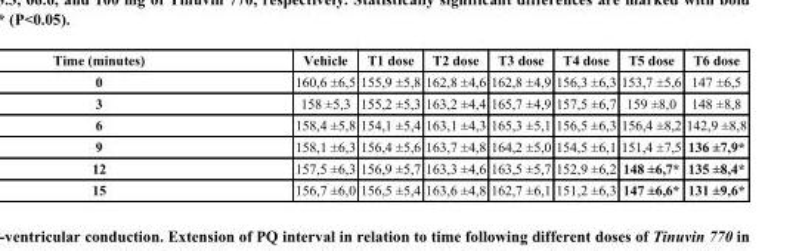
<table><thead><tr><td>Time (minutes)</td><td>Vehicle</td><td>T1 dose</td><td>T2 dose</td><td>T3 dose</td><td>T4 dose</td><td>T5 dose</td><td>T6 dose</td></tr></thead><tbody><tr><td>0</td><td>160,6 ±6,5</td><td>155,9 ±5,8</td><td>162,8 ±4,6</td><td>162,8 ±4,9</td><td>156,3 ±6,3</td><td>153,7 ±5,6</td><td>147 ±6,5</td></tr><tr><td>3</td><td>158 ±5,3</td><td>155,2 ±5,3</td><td>163,2 ±4,4</td><td>165,7 ±4,9</td><td>157,5 ±6,7</td><td>159 ±8,0</td><td>148 ±8,8</td></tr><tr><td>6</td><td>158,4 ±5,8</td><td>154,1 ±5,4</td><td>163,1 ±4,3</td><td>165,3 ±5,1</td><td>156,5 ±6,3</td><td>156,4 ±8,2</td><td>142,9 ±8,8</td></tr><tr><td>9</td><td>158,1 ±6,3</td><td>156,4 ±5,6</td><td>163,7 ±4,8</td><td>164,2 ±5,0</td><td>154,5 ±6,1</td><td>151,4 ±7,5</td><td>136 ±7,9*</td></tr><tr><td>12</td><td>157,5 ±6,3</td><td>156,9 ±5,7</td><td>163,3 ±4,6</td><td>163,5 ±5,7</td><td>152,9 ±6,2</td><td>148 ±6,7*</td><td>135 ±8,4*</td></tr><tr><td>15</td><td>156,7 ±6,0</td><td>156,5 ±5,4</td><td>163,6 ±4,8</td><td>162,7 ±6,1</td><td>151,2 ±6,3</td><td>147 ±6,6*</td><td>131 ±9,6*</td></tr></tbody></table>